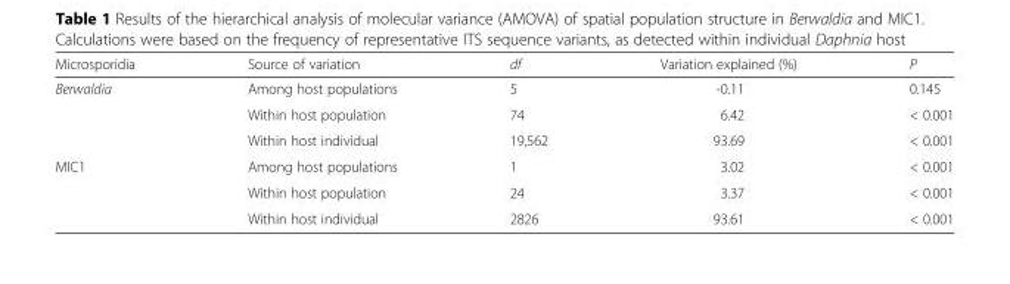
<table><thead><tr><td>Microsporidia</td><td>Source of variation</td><td>df</td><td>Variation explained (%)</td><td>P</td></tr></thead><tbody><tr><td rowspan="3">Berwaldia</td><td>Among host populations</td><td>5</td><td>-0.11</td><td>0.145</td></tr><tr><td>Within host population</td><td>74</td><td>6.42</td><td>&lt; 0.001</td></tr><tr><td>Within host individual</td><td>19,562</td><td>93.69</td><td>&lt; 0.001</td></tr><tr><td rowspan="3">MIC1</td><td>Among host populations</td><td>1</td><td>3.02</td><td>&lt; 0.001</td></tr><tr><td>Within host population</td><td>24</td><td>3.37</td><td>&lt; 0.001</td></tr><tr><td>Within host individual</td><td>2826</td><td>93.61</td><td>&lt; 0.001</td></tr></tbody></table>